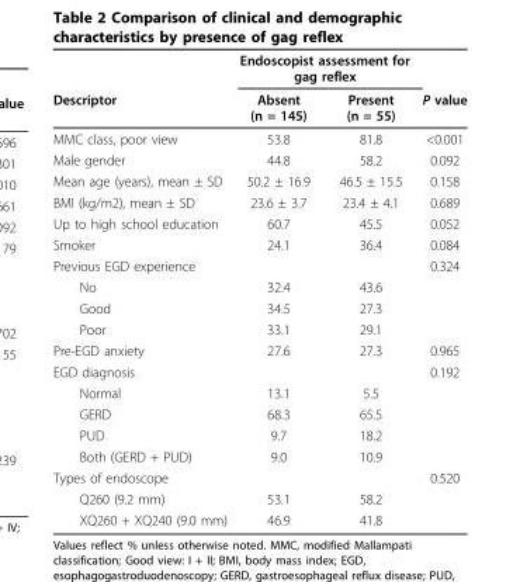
<table><thead><tr><td rowspan="2">Descriptor</td><td colspan="2">Endoscopist assessment for gag reflex</td><td rowspan="2">P value</td></tr><tr><td>Absent (n = 145)</td><td>Present (n = 55)</td></tr></thead><tbody><tr><td>MMC class, poor view</td><td>53.8</td><td>81.8</td><td>&lt;0.001</td></tr><tr><td>Male gender</td><td>44.8</td><td>58.2</td><td>0.092</td></tr><tr><td>Mean age (years), mean ± SD</td><td>50.2 ± 16.9</td><td>46.5 ± 15.5</td><td>0.158</td></tr><tr><td>BMI (kg/m2), mean ± SD</td><td>23.6 ± 3.7</td><td>23.4 ± 4.1</td><td>0.689</td></tr><tr><td>Up to high school education</td><td>60.7</td><td>45.5</td><td>0.052</td></tr><tr><td>Smoker</td><td>24.1</td><td>36.4</td><td>0.084</td></tr><tr><td>Previous EGD experience</td><td></td><td></td><td>0.324</td></tr><tr><td>No</td><td>32.4</td><td>43.6</td><td></td></tr><tr><td>Good</td><td>34.5</td><td>27.3</td><td></td></tr><tr><td>Poor</td><td>33.1</td><td>29.1</td><td></td></tr><tr><td>Pre-EGD anxiety</td><td>27.6</td><td>27.3</td><td>0.965</td></tr><tr><td>EGD diagnosis</td><td></td><td></td><td>0.192</td></tr><tr><td>Normal</td><td>13.1</td><td>5.5</td><td></td></tr><tr><td>GERD</td><td>68.3</td><td>65.5</td><td></td></tr><tr><td>PUD</td><td>9.7</td><td>18.2</td><td></td></tr><tr><td>Both (GERD + PUD)</td><td>9.0</td><td>10.9</td><td></td></tr><tr><td>Types of endoscope</td><td></td><td></td><td>0.520</td></tr><tr><td>Q260 (9.2 mm)</td><td>53.1</td><td>58.2</td><td></td></tr><tr><td>XQ260 + XQ240 (9.0 mm)</td><td>46.9</td><td>41.8</td><td></td></tr></tbody></table>